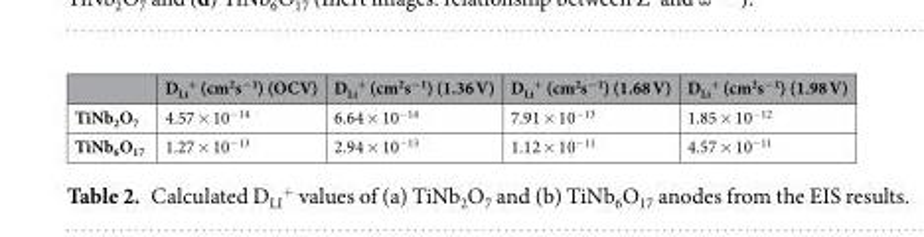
<table><thead><tr><td></td><td>D<sub>Li</sub> <sup>+</sup> (cm<sup>2</sup>s<sup>−1</sup>) (OCV)</td><td>D<sub>Li</sub> <sup>+</sup> (cm<sup>2</sup>s<sup>−1</sup>) (1.36 V)</td><td>D<sub>Li</sub> <sup>+</sup> (cm<sup>2</sup>s<sup>−1</sup>) (1.68 V)</td><td>D<sub>Li</sub> <sup>+</sup> (cm<sup>2</sup>s<sup>−1</sup>) (1.98 V)</td></tr></thead><tbody><tr><td>TiNb<sub>2</sub>O<sub>7</sub></td><td>4.57 × 10<sup>−14</sup></td><td>6.64 × 10<sup>−14</sup></td><td>7.91 × 10<sup>−13</sup></td><td>1.85 × 10<sup>−12</sup></td></tr><tr><td>TiNb<sub>6</sub>O<sub>17</sub></td><td>1.27 × 10<sup>−13</sup></td><td>2.94 × 10<sup>−13</sup></td><td>1.12 × 10<sup>−11</sup></td><td>4.57 × 10<sup>−11</sup></td></tr></tbody></table>